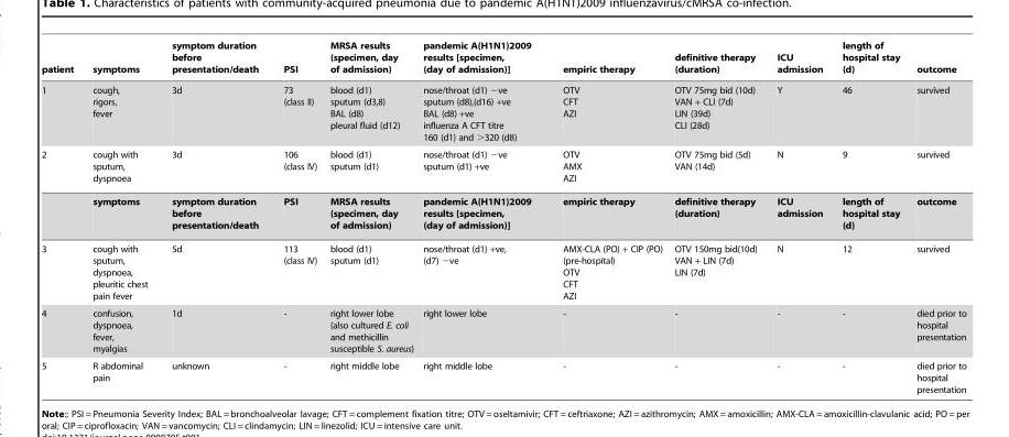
<table><thead><tr><td>patient</td><td>symptoms</td><td>symptom duration before presentation/death</td><td>PSI</td><td>MRSA results (specimen, day of admission)</td><td>pandemic A(H1N1)2009 results [specimen, (day of admission)]</td><td>empiric therapy</td><td>definitive therapy (duration)</td><td>ICU admission</td><td>length of hospital stay (d)</td><td>outcome</td></tr></thead><tbody><tr><td>1</td><td>cough, rigors, fever</td><td>3d</td><td>73 (class II)</td><td>blood (d1) sputum (d3,8) BAL (d8) pleural fluid (d12)</td><td>nose/throat (d1) −ve sputum (d8),(d16) +ve BAL (d8) +ve influenza A CFT titre 160 (d1) and &gt;320 (d8)</td><td>OTV CFT AZI</td><td>OTV 75mg bid (10d) VAN + CLI (7d) LIN (39d) CLI (28d)</td><td>Y</td><td>46</td><td>survived</td></tr><tr><td rowspan="2">2</td><td>cough with sputum, dyspnoea</td><td>3d</td><td>106 (class IV)</td><td>blood (d1) sputum (d1)</td><td>nose/throat (d1) −ve sputum (d1) +ve</td><td>OTV AMX AZI</td><td>OTV 75mg bid (5d) VAN (14d)</td><td>N</td><td>9</td><td>survived</td></tr><tr><td>symptoms</td><td>symptom duration before presentation/death</td><td>PSI</td><td>MRSA results (specimen, day of admission)</td><td>pandemic A(H1N1)2009 results [specimen, (day of admission)]</td><td>empiric therapy</td><td>definitive therapy (duration)</td><td>ICU admission</td><td>length of hospital stay (d)</td><td>outcome</td></tr><tr><td>3</td><td>cough with sputum, dyspnoea, pleuritic chest pain fever</td><td>5d</td><td>113 (class IV)</td><td>blood (d1) sputum (d1)</td><td>nose/throat (d1) +ve, (d7) −ve</td><td>AMX-CLA (PO) + CIP (PO) (pre-hospital) OTV CFT AZI</td><td>OTV 150mg bid(10d) VAN + LIN (7d) LIN (7d)</td><td>N</td><td>12</td><td>survived</td></tr><tr><td>4</td><td>confusion, dyspnoea, fever, myalgias</td><td>1d</td><td>-</td><td>right lower lobe (also cultured E. coli and methicillin susceptible S. aureus)</td><td>right lower lobe</td><td>-</td><td>-</td><td>-</td><td>-</td><td>died prior to hospital presentation</td></tr><tr><td>5</td><td>R abdominal pain</td><td>unknown</td><td>-</td><td>right middle lobe</td><td>right middle lobe</td><td>-</td><td>-</td><td>-</td><td>-</td><td>died prior to hospital presentation</td></tr></tbody></table>